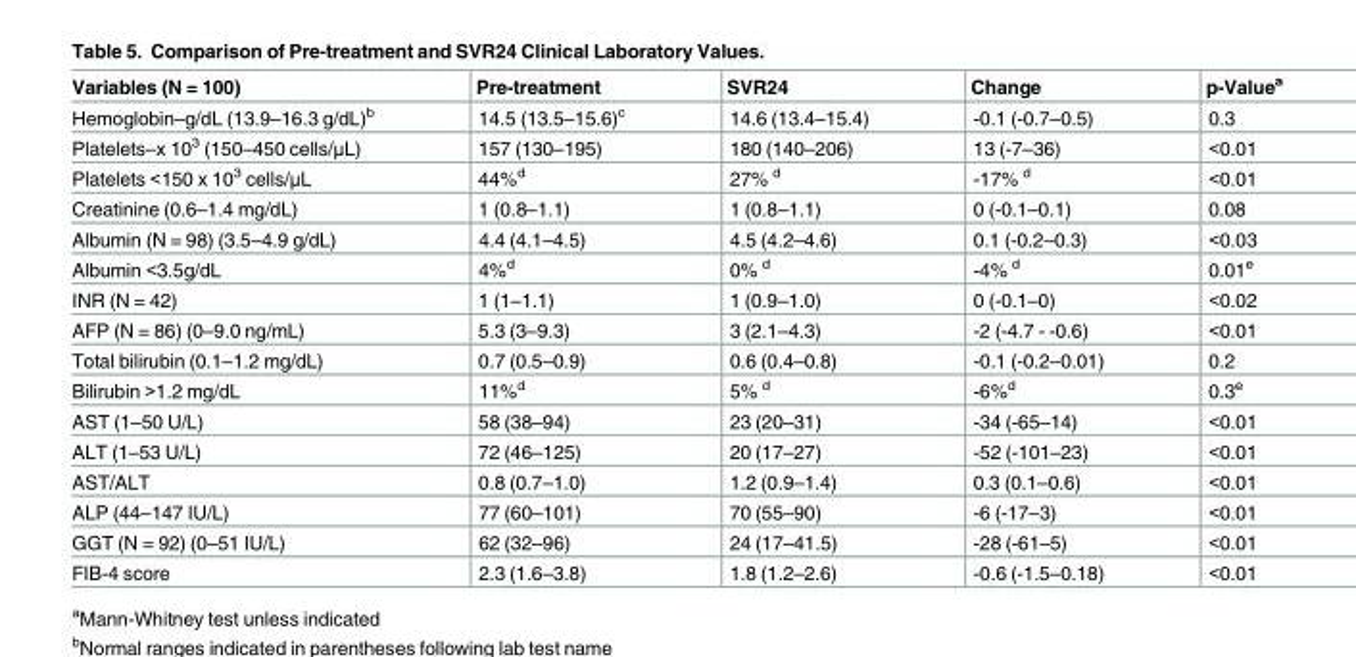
<table><thead><tr><td>Variables (N = 100)</td><td>Pre-treatment</td><td>SVR24</td><td>Change</td><td>p-Value<sup>a</sup></td></tr></thead><tbody><tr><td>Hemoglobin–g/dL (13.9–16.3 g/dL)<sup>b</sup></td><td>14.5 (13.5–15.6)<sup>c</sup></td><td>14.6 (13.4–15.4)</td><td>-0.1 (-0.7–0.5)</td><td>0.3</td></tr><tr><td>Platelets–x 10<sup>3</sup> (150–450 cells/μL)</td><td>157 (130–195)</td><td>180 (140–206)</td><td>13 (-7–36)</td><td>&lt;0.01</td></tr><tr><td>Platelets &lt;150 x 10<sup>3</sup> cells/μL</td><td>44%<sup>d</sup></td><td>27% <sup>d</sup></td><td>-17% <sup>d</sup></td><td>&lt;0.01</td></tr><tr><td>Creatinine (0.6–1.4 mg/dL)</td><td>1 (0.8–1.1)</td><td>1 (0.8–1.1)</td><td>0 (-0.1–0.1)</td><td>0.08</td></tr><tr><td>Albumin (N = 98) (3.5–4.9 g/dL)</td><td>4.4 (4.1–4.5)</td><td>4.5 (4.2–4.6)</td><td>0.1 (-0.2–0.3)</td><td>&lt;0.03</td></tr><tr><td>Albumin &lt;3.5g/dL</td><td>4%<sup>d</sup></td><td>0% <sup>d</sup></td><td>-4% <sup>d</sup></td><td>0.01<sup>e</sup></td></tr><tr><td>INR (N = 42)</td><td>1 (1–1.1)</td><td>1 (0.9–1.0)</td><td>0 (-0.1–0)</td><td>&lt;0.02</td></tr><tr><td>AFP (N = 86) (0–9.0 ng/mL)</td><td>5.3 (3–9.3)</td><td>3 (2.1–4.3)</td><td>-2 (-4.7 - -0.6)</td><td>&lt;0.01</td></tr><tr><td>Total bilirubin (0.1–1.2 mg/dL)</td><td>0.7 (0.5–0.9)</td><td>0.6 (0.4–0.8)</td><td>-0.1 (-0.2–0.01)</td><td>0.2</td></tr><tr><td>Bilirubin &gt;1.2 mg/dL</td><td>11%<sup>d</sup></td><td>5% <sup>d</sup></td><td>-6%<sup>d</sup></td><td>0.3<sup>e</sup></td></tr><tr><td>AST (1–50 U/L)</td><td>58 (38–94)</td><td>23 (20–31)</td><td>-34 (-65–14)</td><td>&lt;0.01</td></tr><tr><td>ALT (1–53 U/L)</td><td>72 (46–125)</td><td>20 (17–27)</td><td>-52 (-101–23)</td><td>&lt;0.01</td></tr><tr><td>AST/ALT</td><td>0.8 (0.7–1.0)</td><td>1.2 (0.9–1.4)</td><td>0.3 (0.1–0.6)</td><td>&lt;0.01</td></tr><tr><td>ALP (44–147 IU/L)</td><td>77 (60–101)</td><td>70 (55–90)</td><td>-6 (-17–3)</td><td>&lt;0.01</td></tr><tr><td>GGT (N = 92) (0–51 IU/L)</td><td>62 (32–96)</td><td>24 (17–41.5)</td><td>-28 (-61–5)</td><td>&lt;0.01</td></tr><tr><td>FIB-4 score</td><td>2.3 (1.6–3.8)</td><td>1.8 (1.2–2.6)</td><td>-0.6 (-1.5–0.18)</td><td>&lt;0.01</td></tr></tbody></table>